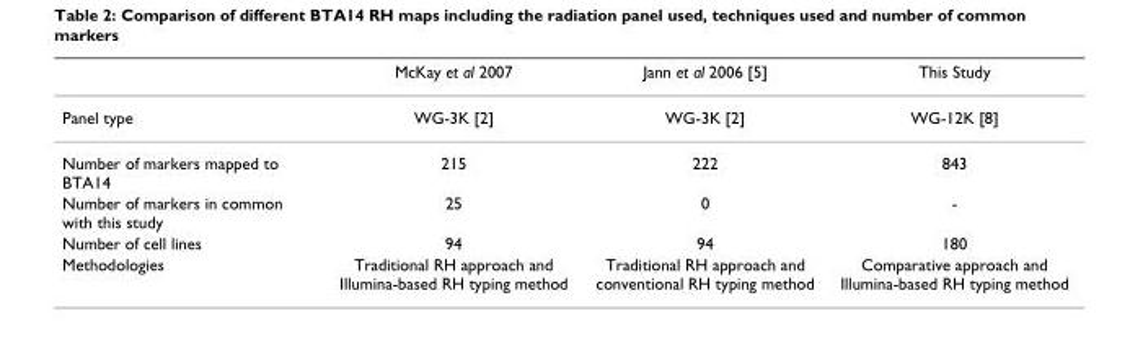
<table><thead><tr><td></td><td>McKay et al 2007</td><td>Jann et al 2006 [5]</td><td>This Study</td></tr></thead><tbody><tr><td>Panel type</td><td>WG-3K [2]</td><td>WG-3K [2]</td><td>WG-12K [8]</td></tr><tr><td>Number of markers mapped to BTA14</td><td>215</td><td>222</td><td>843</td></tr><tr><td>Number of markers in common with this study</td><td>25</td><td>0</td><td>-</td></tr><tr><td>Number of cell lines</td><td>94</td><td>94</td><td>180</td></tr><tr><td>Methodologies</td><td>Traditional RH approach and Illumina-based RH typing method</td><td>Traditional RH approach and conventional RH typing method</td><td>Comparative approach and Illumina-based RH typing method</td></tr></tbody></table>